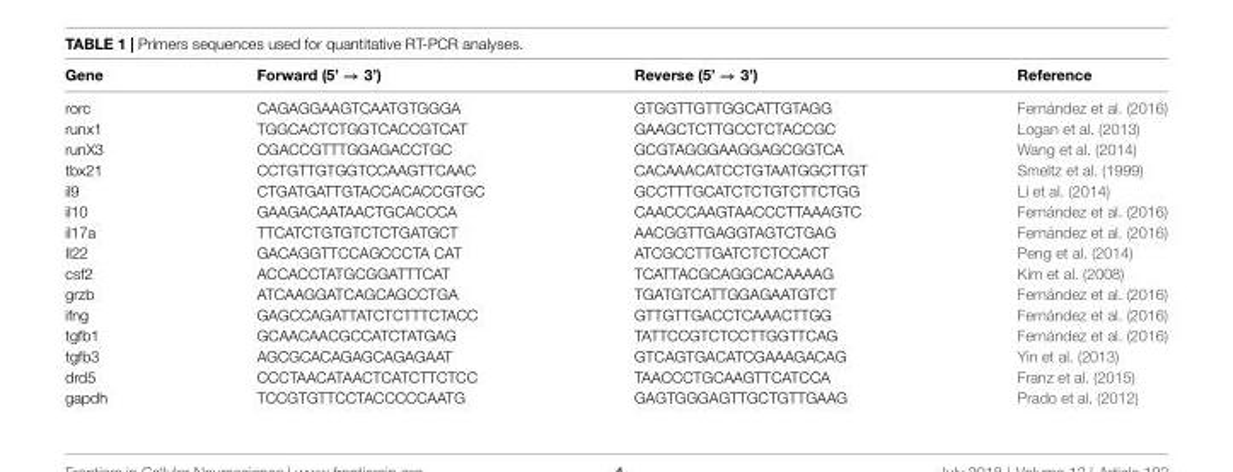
<table><thead><tr><td>Gene</td><td>Forward (5’ → 3’)</td><td>Reverse (5’ → 3’)</td><td>Reference</td></tr></thead><tbody><tr><td>rorc</td><td>CAGAGGAAGTCAATGTGGGA</td><td>GTGGTTGTTGGCATTGTAGG</td><td>Fernández et al. (2016)</td></tr><tr><td>runx1</td><td>TGGCACTCTGGTCACCGTCAT</td><td>GAAGCTCTTGCCTCTACCGC</td><td>Logan et al. (2013)</td></tr><tr><td>runX3</td><td>CGACCGTTTGGAGACCTGC</td><td>GCGTAGGGAAGGAGCGGTCA</td><td>Wang et al. (2014)</td></tr><tr><td>tbx21</td><td>CCTGTTGTGGTCCAAGTTCAAC</td><td>CACAAACATCCTGTAATGGCTTGT</td><td>Smeltz et al. (1999)</td></tr><tr><td>il9</td><td>CTGATGATTGTACCACACCGTGC</td><td>GCCTTTGCATCTCTGTCTTCTGG</td><td>Li et al. (2014)</td></tr><tr><td>il10</td><td>GAAGACAATAACTGCACCCA</td><td>CAACCCAAGTAACCCTTAAAGTC</td><td>Fernández et al. (2016)</td></tr><tr><td>il17a</td><td>TTCATCTGTGTCTCTGATGCT</td><td>AACGGTTGAGGTAGTCTGAG</td><td>Fernández et al. (2016)</td></tr><tr><td>Il22</td><td>GACAGGTTCCAGCCCTA CAT</td><td>ATCGCCTTGATCTCTCCACT</td><td>Peng et al. (2014)</td></tr><tr><td>csf2</td><td>ACCACCTATGCGGATTTCAT</td><td>TCATTACGCAGGCACAAAAG</td><td>Kim et al. (2008)</td></tr><tr><td>grzb</td><td>ATCAAGGATCAGCAGCCTGA</td><td>TGATGTCATTGGAGAATGTCT</td><td>Fernández et al. (2016)</td></tr><tr><td>ifng</td><td>GAGCCAGATTATCTCTTTCTACC</td><td>GTTGTTGACCTCAAACTTGG</td><td>Fernández et al. (2016)</td></tr><tr><td>tgfb1</td><td>GCAACAACGCCATCTATGAG</td><td>TATTCCGTCTCCTTGGTTCAG</td><td>Fernández et al. (2016)</td></tr><tr><td>tgfb3</td><td>AGCGCACAGAGCAGAGAAT</td><td>GTCAGTGACATCGAAAGACAG</td><td>Yin et al. (2013)</td></tr><tr><td>drd5</td><td>CCCTAACATAACTCATCTTCTCC</td><td>TAACCCTGCAAGTTCATCCA</td><td>Franz et al. (2015)</td></tr><tr><td>gapdh</td><td>TCCGTGTTCCTACCCCCAATG</td><td>GAGTGGGAGTTGCTGTTGAAG</td><td>Prado et al. (2012)</td></tr></tbody></table>